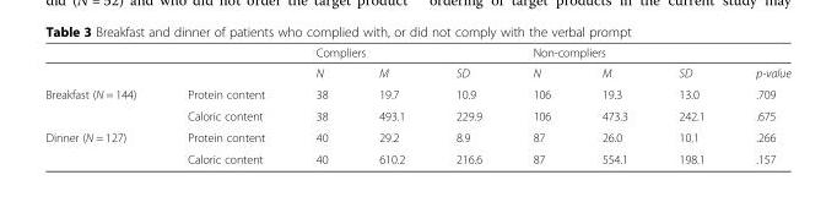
<table><thead><tr><td></td><td></td><td colspan="3">Compliers</td><td colspan="3">Non-compliers</td><td rowspan="2">p-value</td></tr><tr><td colspan="2"></td><td>N</td><td>M</td><td>SD</td><td>N</td><td>M</td><td>SD</td></tr></thead><tbody><tr><td rowspan="2">Breakfast (N = 144)</td><td>Protein content</td><td>38</td><td>19.7</td><td>10.9</td><td>106</td><td>19.3</td><td>13.0</td><td>.709</td></tr><tr><td>Caloric content</td><td>38</td><td>493.1</td><td>229.9</td><td>106</td><td>473.3</td><td>242.1</td><td>.675</td></tr><tr><td rowspan="2">Dinner (N = 127)</td><td>Protein content</td><td>40</td><td>29.2</td><td>8.9</td><td>87</td><td>26.0</td><td>10.1</td><td>.266</td></tr><tr><td>Caloric content</td><td>40</td><td>610.2</td><td>216.6</td><td>87</td><td>554.1</td><td>198.1</td><td>.157</td></tr></tbody></table>